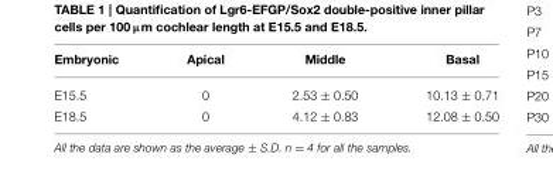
<table><thead><tr><td>Embryonic</td><td>Apical</td><td>Middle</td><td>Basal</td></tr></thead><tbody><tr><td>E15.5</td><td>0</td><td>2.53 ± 0.50</td><td>10.13 ± 0.71</td></tr><tr><td>E18.5</td><td>0</td><td>4.12 ± 0.83</td><td>12.08 ± 0.50</td></tr></tbody></table>